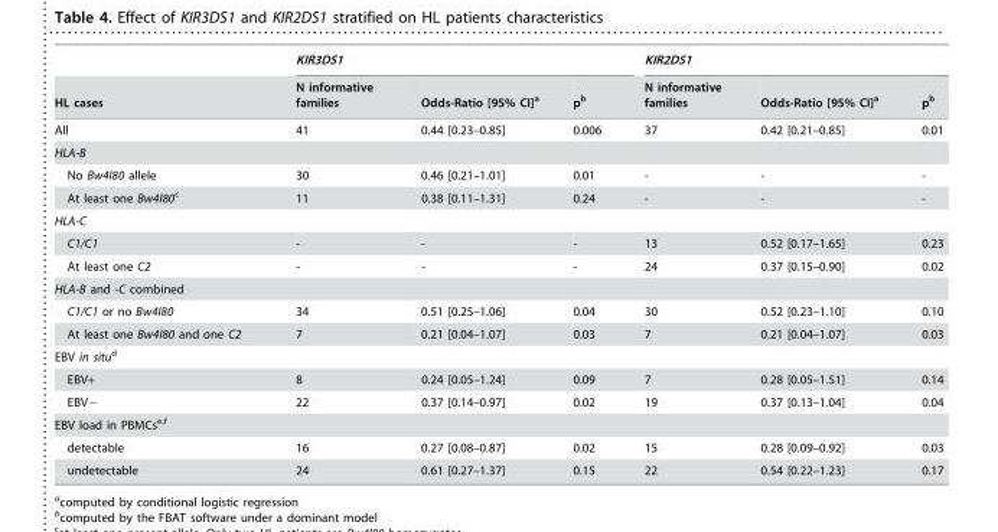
<table><thead><tr><td rowspan="2">HL cases</td><td colspan="3">KIR3DS1</td><td colspan="3">KIR2DS1</td></tr><tr><td>N informative families</td><td>Odds-Ratio [95% CI]<sup>a</sup></td><td>p<sup>b</sup></td><td>N informative families</td><td>Odds-Ratio [95% CI]<sup>a</sup></td><td>p<sup>b</sup></td></tr></thead><tbody><tr><td>All</td><td>41</td><td>0.44 [0.23–0.85]</td><td>0.006</td><td>37</td><td>0.42 [0.21–0.85]</td><td>0.01</td></tr><tr><td colspan="7">HLA-B</td></tr><tr><td>No Bw4I80 allele</td><td>30</td><td>0.46 [0.21–1.01]</td><td>0.01</td><td>-</td><td>-</td><td>-</td></tr><tr><td>At least one Bw4I80c</td><td>11</td><td>0.38 [0.11–1.31]</td><td>0.24</td><td>-</td><td>-</td><td>-</td></tr><tr><td colspan="7">HLA-C</td></tr><tr><td>C1/C1</td><td>-</td><td>-</td><td>-</td><td>13</td><td>0.52 [0.17–1.65]</td><td>0.23</td></tr><tr><td>At least one C2</td><td>-</td><td>-</td><td>-</td><td>24</td><td>0.37 [0.15–0.90]</td><td>0.02</td></tr><tr><td colspan="7">HLA-B and -C combined</td></tr><tr><td>C1/C1 or no Bw4I80</td><td>34</td><td>0.51 [0.25–1.06]</td><td>0.04</td><td>30</td><td>0.52 [0.23–1.10]</td><td>0.10</td></tr><tr><td>At least one Bw4I80 and one C2</td><td>7</td><td>0.21 [0.04–1.07]</td><td>0.03</td><td>7</td><td>0.21 [0.04–1.07]</td><td>0.03</td></tr><tr><td colspan="7">EBV in situd</td></tr><tr><td>EBV+</td><td>8</td><td>0.24 [0.05–1.24]</td><td>0.09</td><td>7</td><td>0.28 [0.05–1.51]</td><td>0.14</td></tr><tr><td>EBV−</td><td>22</td><td>0.37 [0.14–0.97]</td><td>0.02</td><td>19</td><td>0.37 [0.13–1.04]</td><td>0.04</td></tr><tr><td colspan="7">EBV load in PBMCse,f</td></tr><tr><td>detectable</td><td>16</td><td>0.27 [0.08–0.87]</td><td>0.02</td><td>15</td><td>0.28 [0.09–0.92]</td><td>0.03</td></tr><tr><td>undetectable</td><td>24</td><td>0.61 [0.27–1.37]</td><td>0.15</td><td>22</td><td>0.54 [0.22–1.23]</td><td>0.17</td></tr></tbody></table>